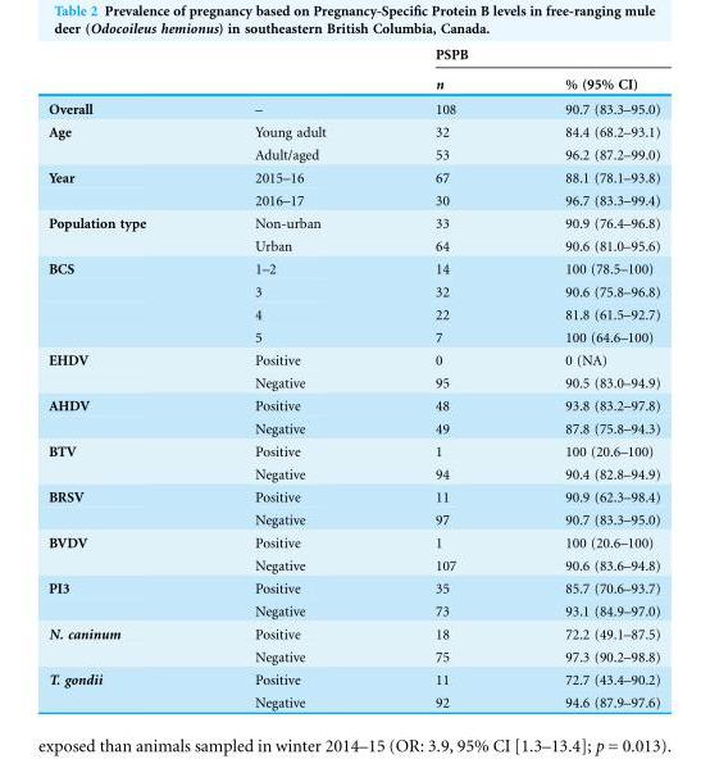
<table><thead><tr><td rowspan="2"></td><td rowspan="2"></td><td colspan="2">PSPB</td></tr><tr><td>n</td><td>% (95% CI)</td></tr></thead><tbody><tr><td>Overall</td><td>–</td><td>108</td><td>90.7 (83.3–95.0)</td></tr><tr><td rowspan="2">Age</td><td>Young adult</td><td>32</td><td>84.4 (68.2–93.1)</td></tr><tr><td>Adult/aged</td><td>53</td><td>96.2 (87.2–99.0)</td></tr><tr><td rowspan="2">Year</td><td>2015–16</td><td>67</td><td>88.1 (78.1–93.8)</td></tr><tr><td>2016–17</td><td>30</td><td>96.7 (83.3–99.4)</td></tr><tr><td rowspan="2">Population type</td><td>Non-urban</td><td>33</td><td>90.9 (76.4–96.8)</td></tr><tr><td>Urban</td><td>64</td><td>90.6 (81.0–95.6)</td></tr><tr><td rowspan="4">BCS</td><td>1–2</td><td>14</td><td>100 (78.5–100)</td></tr><tr><td>3</td><td>32</td><td>90.6 (75.8–96.8)</td></tr><tr><td>4</td><td>22</td><td>81.8 (61.5–92.7)</td></tr><tr><td>5</td><td>7</td><td>100 (64.6–100)</td></tr><tr><td rowspan="2">EHDV</td><td>Positive</td><td>0</td><td>0 (NA)</td></tr><tr><td>Negative</td><td>95</td><td>90.5 (83.0–94.9)</td></tr><tr><td rowspan="2">AHDV</td><td>Positive</td><td>48</td><td>93.8 (83.2–97.8)</td></tr><tr><td>Negative</td><td>49</td><td>87.8 (75.8–94.3)</td></tr><tr><td rowspan="2">BTV</td><td>Positive</td><td>1</td><td>100 (20.6–100)</td></tr><tr><td>Negative</td><td>94</td><td>90.4 (82.8–94.9)</td></tr><tr><td rowspan="2">BRSV</td><td>Positive</td><td>11</td><td>90.9 (62.3–98.4)</td></tr><tr><td>Negative</td><td>97</td><td>90.7 (83.3–95.0)</td></tr><tr><td rowspan="2">BVDV</td><td>Positive</td><td>1</td><td>100 (20.6–100)</td></tr><tr><td>Negative</td><td>107</td><td>90.6 (83.6–94.8)</td></tr><tr><td rowspan="2">PI3</td><td>Positive</td><td>35</td><td>85.7 (70.6–93.7)</td></tr><tr><td>Negative</td><td>73</td><td>93.1 (84.9–97.0)</td></tr><tr><td rowspan="2">N. caninum</td><td>Positive</td><td>18</td><td>72.2 (49.1–87.5)</td></tr><tr><td>Negative</td><td>75</td><td>97.3 (90.2–98.8)</td></tr><tr><td rowspan="2">T. gondii</td><td>Positive</td><td>11</td><td>72.7 (43.4–90.2)</td></tr><tr><td>Negative</td><td>92</td><td>94.6 (87.9–97.6)</td></tr></tbody></table>